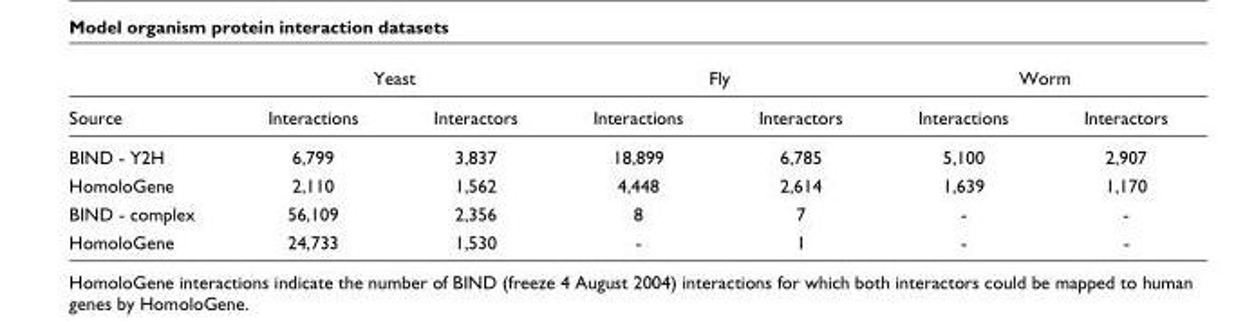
<table><thead><tr><td rowspan="2">Source</td><td colspan="2">Yeast</td><td colspan="2">Fly</td><td colspan="2">Worm</td></tr><tr><td>Interactions</td><td>Interactors</td><td>Interactions</td><td>Interactors</td><td>Interactions</td><td>Interactors</td></tr></thead><tbody><tr><td>BIND - Y2H</td><td>6,799</td><td>3,837</td><td>18,899</td><td>6,785</td><td>5,100</td><td>2,907</td></tr><tr><td>HomoloGene</td><td>2,110</td><td>1,562</td><td>4,448</td><td>2,614</td><td>1,639</td><td>1,170</td></tr><tr><td>BIND - complex</td><td>56,109</td><td>2,356</td><td>8</td><td>7</td><td>-</td><td>-</td></tr><tr><td>HomoloGene</td><td>24,733</td><td>1,530</td><td>-</td><td>1</td><td>-</td><td>-</td></tr></tbody></table>